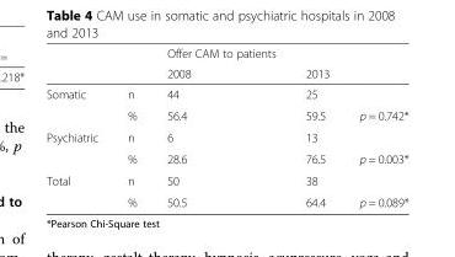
<table><thead><tr><td rowspan="2"></td><td rowspan="2"></td><td rowspan="2">Offer CAM to patients 2008</td><td rowspan="2">2013</td><td rowspan="2"></td></tr><tr></tr></thead><tbody><tr><td rowspan="2">Somatic</td><td>n</td><td>44</td><td>25</td><td></td></tr><tr><td>%</td><td>56.4</td><td>59.5</td><td>p = 0.742*</td></tr><tr><td rowspan="2">Psychiatric</td><td>n</td><td>6</td><td>13</td><td></td></tr><tr><td>%</td><td>28.6</td><td>76.5</td><td>p = 0.003*</td></tr><tr><td rowspan="2">Total</td><td>n</td><td>50</td><td>38</td><td></td></tr><tr><td>%</td><td>50.5</td><td>64.4</td><td>p = 0.089*</td></tr></tbody></table>